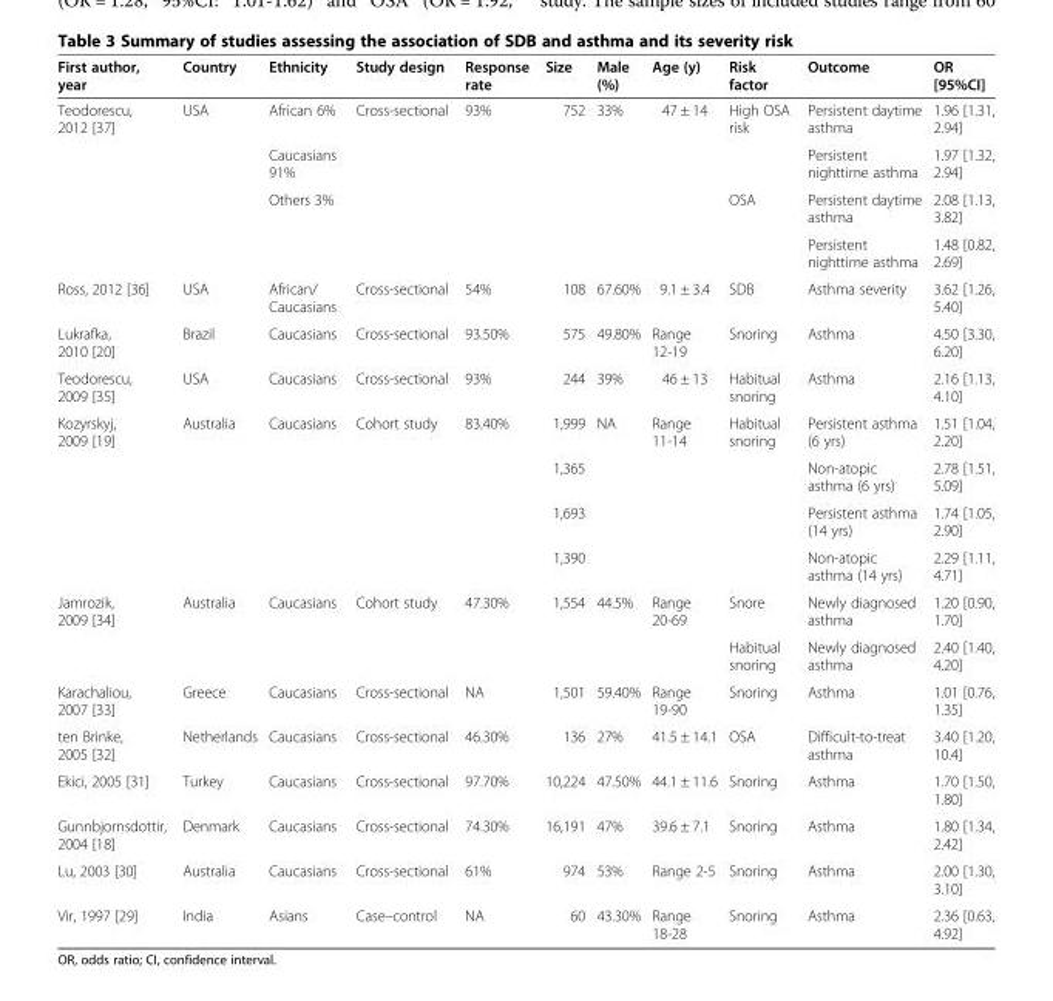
<table><thead><tr><td>First author, year</td><td>Country</td><td>Ethnicity</td><td>Study design</td><td>Response rate</td><td>Size</td><td>Male (%)</td><td>Age (y)</td><td>Risk factor</td><td>Outcome</td><td>OR [95%CI]</td></tr></thead><tbody><tr><td rowspan="4">Teodorescu, 2012 [37]</td><td>USA</td><td>African 6%</td><td>Cross-sectional</td><td>93%</td><td>752</td><td>33%</td><td>47 ± 14</td><td>High OSA risk</td><td>Persistent daytime asthma</td><td>1.96 [1.31, 2.94]</td></tr><tr><td></td><td>Caucasians 91%</td><td></td><td></td><td></td><td></td><td></td><td></td><td>Persistent nighttime asthma</td><td>1.97 [1.32, 2.94]</td></tr><tr><td></td><td>Others 3%</td><td></td><td></td><td></td><td></td><td></td><td>OSA</td><td>Persistent daytime asthma</td><td>2.08 [1.13, 3.82]</td></tr><tr><td></td><td></td><td></td><td></td><td></td><td></td><td></td><td></td><td>Persistent nighttime asthma</td><td>1.48 [0.82, 2.69]</td></tr><tr><td>Ross, 2012 [36]</td><td>USA</td><td>African/ Caucasians</td><td>Cross-sectional</td><td>54%</td><td>108</td><td>67.60%</td><td>9.1 ± 3.4</td><td>SDB</td><td>Asthma severity</td><td>3.62 [1.26, 5.40]</td></tr><tr><td>Lukrafka, 2010 [20]</td><td>Brazil</td><td>Caucasians</td><td>Cross-sectional</td><td>93.50%</td><td>575</td><td>49.80%</td><td>Range 12-19</td><td>Snoring</td><td>Asthma</td><td>4.50 [3.30, 6.20]</td></tr><tr><td>Teodorescu, 2009 [35]</td><td>USA</td><td>Caucasians</td><td>Cross-sectional</td><td>93%</td><td>244</td><td>39%</td><td>46 ± 13</td><td>Habitual snoring</td><td>Asthma</td><td>2.16 [1.13, 4.10]</td></tr><tr><td rowspan="4">Kozyrskyj, 2009 [19]</td><td>Australia</td><td>Caucasians</td><td>Cohort study</td><td>83.40%</td><td>1,999</td><td>NA</td><td>Range 11-14</td><td>Habitual snoring</td><td>Persistent asthma (6 yrs)</td><td>1.51 [1.04, 2.20]</td></tr><tr><td></td><td></td><td></td><td></td><td>1,365</td><td></td><td></td><td></td><td>Non-atopic asthma (6 yrs)</td><td>2.78 [1.51, 5.09]</td></tr><tr><td></td><td></td><td></td><td></td><td>1,693</td><td></td><td></td><td></td><td>Persistent asthma (14 yrs)</td><td>1.74 [1.05, 2.90]</td></tr><tr><td></td><td></td><td></td><td></td><td>1,390</td><td></td><td></td><td></td><td>Non-atopic asthma (14 yrs)</td><td>2.29 [1.11, 4.71]</td></tr><tr><td rowspan="2">Jamrozik, 2009 [34]</td><td>Australia</td><td>Caucasians</td><td>Cohort study</td><td>47.30%</td><td>1,554</td><td>44.5%</td><td>Range 20-69</td><td>Snore</td><td>Newly diagnosed asthma</td><td>1.20 [0.90, 1.70]</td></tr><tr><td></td><td></td><td></td><td></td><td></td><td></td><td></td><td>Habitual snoring</td><td>Newly diagnosed asthma</td><td>2.40 [1.40, 4.20]</td></tr><tr><td>Karachaliou, 2007 [33]</td><td>Greece</td><td>Caucasians</td><td>Cross-sectional</td><td>NA</td><td>1,501</td><td>59.40%</td><td>Range 19-90</td><td>Snoring</td><td>Asthma</td><td>1.01 [0.76, 1.35]</td></tr><tr><td>ten Brinke, 2005 [32]</td><td>Netherlands</td><td>Caucasians</td><td>Cross-sectional</td><td>46.30%</td><td>136</td><td>27%</td><td>41.5 ± 14.1</td><td>OSA</td><td>Difficult-to-treat asthma</td><td>3.40 [1.20, 10.4]</td></tr><tr><td>Ekici, 2005 [31]</td><td>Turkey</td><td>Caucasians</td><td>Cross-sectional</td><td>97.70%</td><td>10,224</td><td>47.50%</td><td>44.1 ± 11.6</td><td>Snoring</td><td>Asthma</td><td>1.70 [1.50, 1.80]</td></tr><tr><td>Gunnbjornsdottir, 2004 [18]</td><td>Denmark</td><td>Caucasians</td><td>Cross-sectional</td><td>74.30%</td><td>16,191</td><td>47%</td><td>39.6 ± 7.1</td><td>Snoring</td><td>Asthma</td><td>1.80 [1.34, 2.42]</td></tr><tr><td>Lu, 2003 [30]</td><td>Australia</td><td>Caucasians</td><td>Cross-sectional</td><td>61%</td><td>974</td><td>53%</td><td>Range 2-5</td><td>Snoring</td><td>Asthma</td><td>2.00 [1.30, 3.10]</td></tr><tr><td>Vir, 1997 [29]</td><td>India</td><td>Asians</td><td>Case–control</td><td>NA</td><td>60</td><td>43.30%</td><td>Range 18-28</td><td>Snoring</td><td>Asthma</td><td>2.36 [0.63, 4.92]</td></tr></tbody></table>